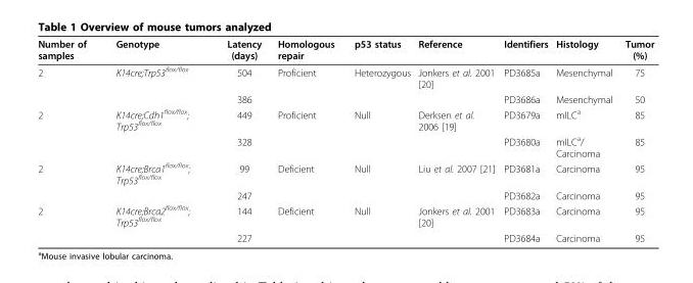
<table><thead><tr><td>Number of samples</td><td>Genotype</td><td>Latency (days)</td><td>Homologous repair</td><td>p53 status</td><td>Reference</td><td>Identifiers</td><td>Histology</td><td>Tumor (%)</td></tr></thead><tbody><tr><td rowspan="2">2</td><td>K14cre;Trp53<sup>flox/flox</sup></td><td>504</td><td>Proficient</td><td>Heterozygous</td><td>Jonkers et al. 2001 [20]</td><td>PD3685a</td><td>Mesenchymal</td><td>75</td></tr><tr><td></td><td>386</td><td></td><td></td><td></td><td>PD3686a</td><td>Mesenchymal</td><td>50</td></tr><tr><td rowspan="2">2</td><td>K14cre;Cdh1<sup>flox/flox</sup>; Trp53<sup>flox/flox</sup></td><td>449</td><td>Proficient</td><td>Null</td><td>Derksen et al. 2006 [19]</td><td>PD3679a</td><td>mILC<sup>a</sup></td><td>85</td></tr><tr><td></td><td>328</td><td></td><td></td><td></td><td>PD3680a</td><td>mILC<sup>a</sup>/ Carcinoma</td><td>85</td></tr><tr><td rowspan="2">2</td><td>K14cre;Brca1<sup>flox/flox</sup>; Trp53<sup>flox/flox</sup></td><td>99</td><td>Deficient</td><td>Null</td><td>Liu et al. 2007 [21]</td><td>PD3681a</td><td>Carcinoma</td><td>95</td></tr><tr><td></td><td>247</td><td></td><td></td><td></td><td>PD3682a</td><td>Carcinoma</td><td>95</td></tr><tr><td rowspan="2">2</td><td>K14cre;Brca2<sup>flox/flox</sup>; Trp53<sup>flox/flox</sup></td><td>144</td><td>Deficient</td><td>Null</td><td>Jonkers et al. 2001 [20]</td><td>PD3683a</td><td>Carcinoma</td><td>95</td></tr><tr><td></td><td>227</td><td></td><td></td><td></td><td>PD3684a</td><td>Carcinoma</td><td>95</td></tr></tbody></table>